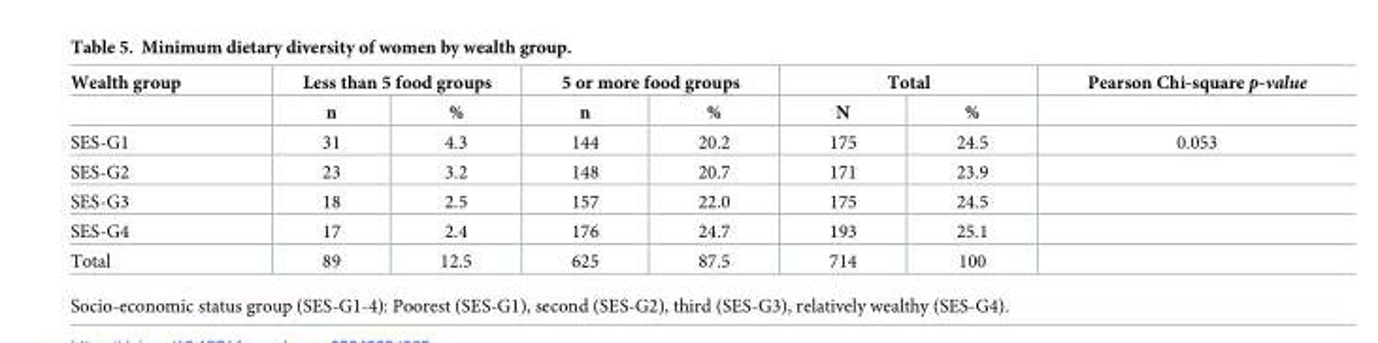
<table><thead><tr><td rowspan="2">Wealth group</td><td colspan="2">Less than 5 food groups</td><td colspan="2">5 or more food groups</td><td colspan="2">Total</td><td rowspan="2">Pearson Chi-square p-value</td></tr><tr><td>n</td><td>%</td><td>n</td><td>%</td><td>N</td><td>%</td></tr></thead><tbody><tr><td>SES-G1</td><td>31</td><td>4.3</td><td>144</td><td>20.2</td><td>175</td><td>24.5</td><td>0.053</td></tr><tr><td>SES-G2</td><td>23</td><td>3.2</td><td>148</td><td>20.7</td><td>171</td><td>23.9</td><td></td></tr><tr><td>SES-G3</td><td>18</td><td>2.5</td><td>157</td><td>22.0</td><td>175</td><td>24.5</td><td></td></tr><tr><td>SES-G4</td><td>17</td><td>2.4</td><td>176</td><td>24.7</td><td>193</td><td>25.1</td><td></td></tr><tr><td>Total</td><td>89</td><td>12.5</td><td>625</td><td>87.5</td><td>714</td><td>100</td><td></td></tr></tbody></table>